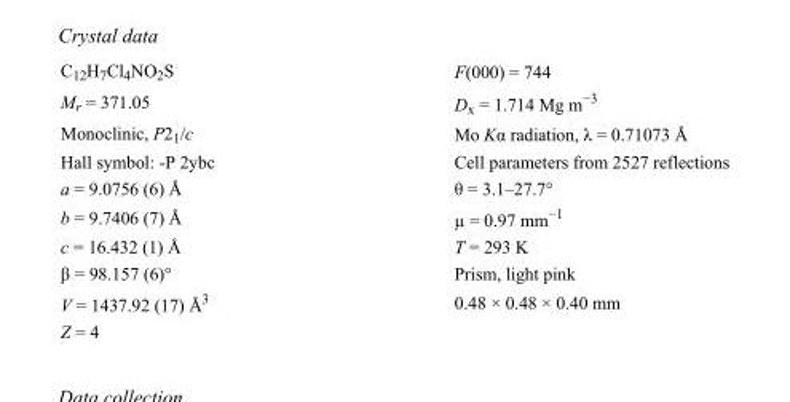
<table><tbody><tr><td>C<sub>12</sub>H<sub>7</sub>Cl<sub>4</sub>NO<sub>2</sub>S</td><td>F(000) = 744</td></tr><tr><td>M<sub>r</sub> = 371.05</td><td>D<sub>x</sub> = 1.714 Mg m<sup>−3</sup></td></tr><tr><td>Monoclinic, P2<sub>1</sub>/c</td><td>Mo Kα radiation, λ = 0.71073 Å</td></tr><tr><td>Hall symbol: -P 2ybc</td><td>Cell parameters from 2527 reflections</td></tr><tr><td>a = 9.0756 (6) Å</td><td>θ = 3.1–27.7°</td></tr><tr><td>b = 9.7406 (7) Å</td><td>µ = 0.97 mm<sup>−1</sup></td></tr><tr><td>c = 16.432 (1) Å</td><td>T = 293 K</td></tr><tr><td>β = 98.157 (6)°</td><td>Prism, light pink</td></tr><tr><td>V = 1437.92 (17) Å<sup>3</sup></td><td>0.48 × 0.48 × 0.40 mm</td></tr><tr><td>Z = 4</td><td></td></tr></tbody></table>